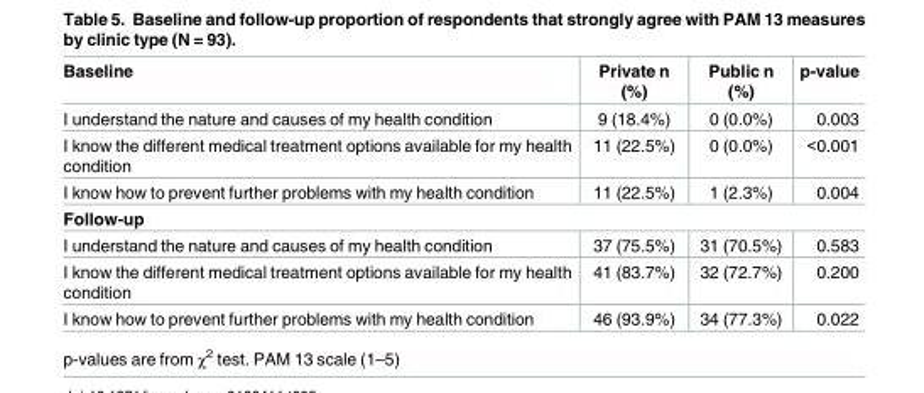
<table><thead><tr><td>Baseline</td><td>Private n (%)</td><td>Public n (%)</td><td>p-value</td></tr></thead><tbody><tr><td>I understand the nature and causes of my health condition</td><td>9 (18.4%)</td><td>0 (0.0%)</td><td>0.003</td></tr><tr><td>I know the different medical treatment options available for my health condition</td><td>11 (22.5%)</td><td>0 (0.0%)</td><td>&lt;0.001</td></tr><tr><td>I know how to prevent further problems with my health condition</td><td>11 (22.5%)</td><td>1 (2.3%)</td><td>0.004</td></tr><tr><td colspan="4">Follow-up</td></tr><tr><td>I understand the nature and causes of my health condition</td><td>37 (75.5%)</td><td>31 (70.5%)</td><td>0.583</td></tr><tr><td>I know the different medical treatment options available for my health condition</td><td>41 (83.7%)</td><td>32 (72.7%)</td><td>0.200</td></tr><tr><td>I know how to prevent further problems with my health condition</td><td>46 (93.9%)</td><td>34 (77.3%)</td><td>0.022</td></tr></tbody></table>